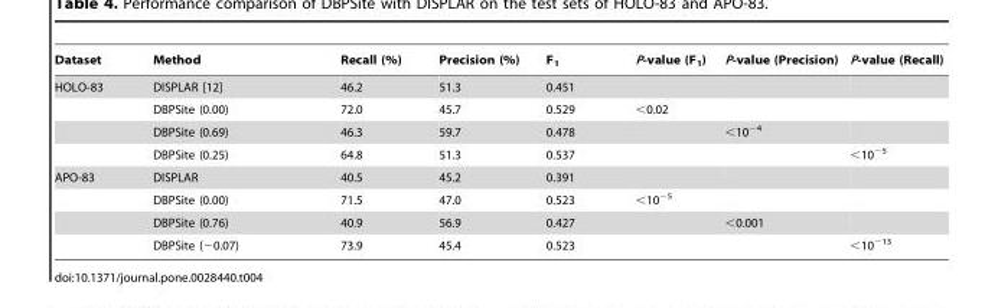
<table><thead><tr><td>Dataset</td><td>Method</td><td>Recall (%)</td><td>Precision (%)</td><td>F<sub>1</sub></td><td>P-value (F<sub>1</sub>)</td><td>P-value (Precision)</td><td>P-value (Recall)</td></tr></thead><tbody><tr><td rowspan="4">HOLO-83</td><td>DISPLAR [12]</td><td>46.2</td><td>51.3</td><td>0.451</td><td></td><td></td><td></td></tr><tr><td>DBPSite (0.00)</td><td>72.0</td><td>45.7</td><td>0.529</td><td>&lt;0.02</td><td></td><td></td></tr><tr><td>DBPSite (0.69)</td><td>46.3</td><td>59.7</td><td>0.478</td><td></td><td>&lt;10<sup>−4</sup></td><td></td></tr><tr><td>DBPSite (0.25)</td><td>64.8</td><td>51.3</td><td>0.537</td><td></td><td></td><td>&lt;10<sup>−5</sup></td></tr><tr><td rowspan="4">APO-83</td><td>DISPLAR</td><td>40.5</td><td>45.2</td><td>0.391</td><td></td><td></td><td></td></tr><tr><td>DBPSite (0.00)</td><td>71.5</td><td>47.0</td><td>0.523</td><td>&lt;10<sup>−5</sup></td><td></td><td></td></tr><tr><td>DBPSite (0.76)</td><td>40.9</td><td>56.9</td><td>0.427</td><td></td><td>&lt;0.001</td><td></td></tr><tr><td>DBPSite (−0.07)</td><td>73.9</td><td>45.4</td><td>0.523</td><td></td><td></td><td>&lt;10<sup>−13</sup></td></tr></tbody></table>